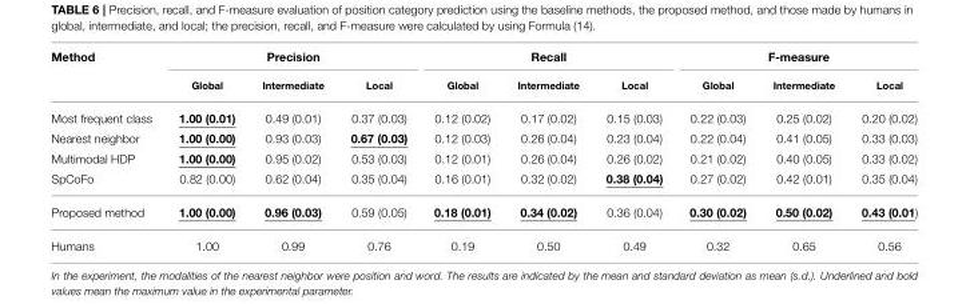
<table><thead><tr><td rowspan="2">Method</td><td colspan="3">Precision</td><td colspan="3">Recall</td><td colspan="3">F-measure</td></tr><tr><td>Global</td><td>Intermediate</td><td>Local</td><td>Global</td><td>Intermediate</td><td>Local</td><td>Global</td><td>Intermediate</td><td>Local</td></tr></thead><tbody><tr><td>Most frequent class</td><td>1.00 (0.01)</td><td>0.49 (0.01)</td><td>0.37 (0.03)</td><td>0.12 (0.02)</td><td>0.17 (0.02)</td><td>0.15 (0.03)</td><td>0.22 (0.03)</td><td>0.25 (0.02)</td><td>0.20 (0.02)</td></tr><tr><td>Nearest neighbor</td><td>1.00 (0.00)</td><td>0.93 (0.03)</td><td>0.67 (0.03)</td><td>0.12 (0.03)</td><td>0.26 (0.04)</td><td>0.23 (0.04)</td><td>0.22 (0.04)</td><td>0.41 (0.05)</td><td>0.33 (0.03)</td></tr><tr><td>Multimodal HDP</td><td>1.00 (0.00)</td><td>0.95 (0.02)</td><td>0.53 (0.03)</td><td>0.12 (0.01)</td><td>0.26 (0.04)</td><td>0.26 (0.02)</td><td>0.21 (0.02)</td><td>0.40 (0.05)</td><td>0.33 (0.02)</td></tr><tr><td>SpCoFo</td><td>0.82 (0.00)</td><td>0.62 (0.04)</td><td>0.35 (0.04)</td><td>0.16 (0.01)</td><td>0.32 (0.02)</td><td>0.38 (0.04)</td><td>0.27 (0.02)</td><td>0.42 (0.01)</td><td>0.35 (0.04)</td></tr><tr><td>Proposed method</td><td>1.00 (0.00)</td><td>0.96 (0.03)</td><td>0.59 (0.05)</td><td>0.18 (0.01)</td><td>0.34 (0.02)</td><td>0.36 (0.04)</td><td>0.30 (0.02)</td><td>0.50 (0.02)</td><td>0.43 (0.01)</td></tr><tr><td>Humans</td><td>1.00</td><td>0.99</td><td>0.76</td><td>0.19</td><td>0.50</td><td>0.49</td><td>0.32</td><td>0.65</td><td>0.56</td></tr></tbody></table>